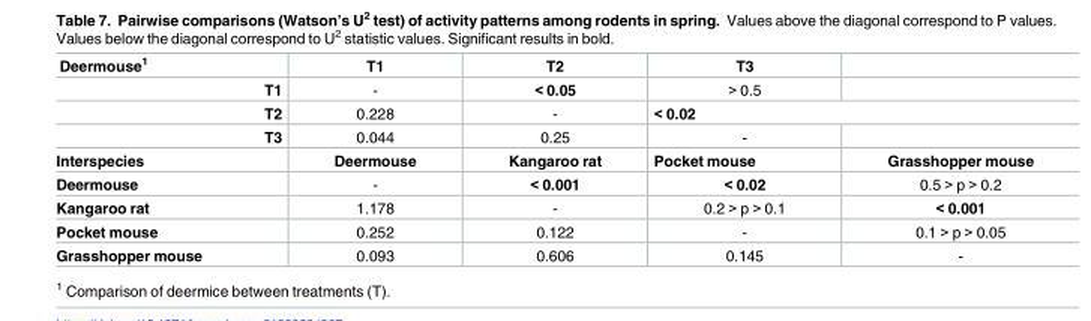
<table><thead><tr><td>Deermouse<sup>1</sup></td><td>T1</td><td>T2</td><td>T3</td><td></td></tr></thead><tbody><tr><td>T1</td><td>-</td><td>&lt; 0.05</td><td>&gt; 0.5</td><td></td></tr><tr><td>T2</td><td>0.228</td><td>-</td><td colspan="2">&lt; 0.02</td></tr><tr><td>T3</td><td>0.044</td><td>0.25</td><td>-</td><td></td></tr><tr><td>Interspecies</td><td>Deermouse</td><td>Kangaroo rat</td><td>Pocket mouse</td><td>Grasshopper mouse</td></tr><tr><td>Deermouse</td><td>-</td><td>&lt; 0.001</td><td>&lt; 0.02</td><td>0.5 &gt; p &gt; 0.2</td></tr><tr><td>Kangaroo rat</td><td>1.178</td><td>-</td><td>0.2 &gt; p &gt; 0.1</td><td>&lt; 0.001</td></tr><tr><td>Pocket mouse</td><td>0.252</td><td>0.122</td><td>-</td><td>0.1 &gt; p &gt; 0.05</td></tr><tr><td>Grasshopper mouse</td><td>0.093</td><td>0.606</td><td>0.145</td><td>-</td></tr></tbody></table>